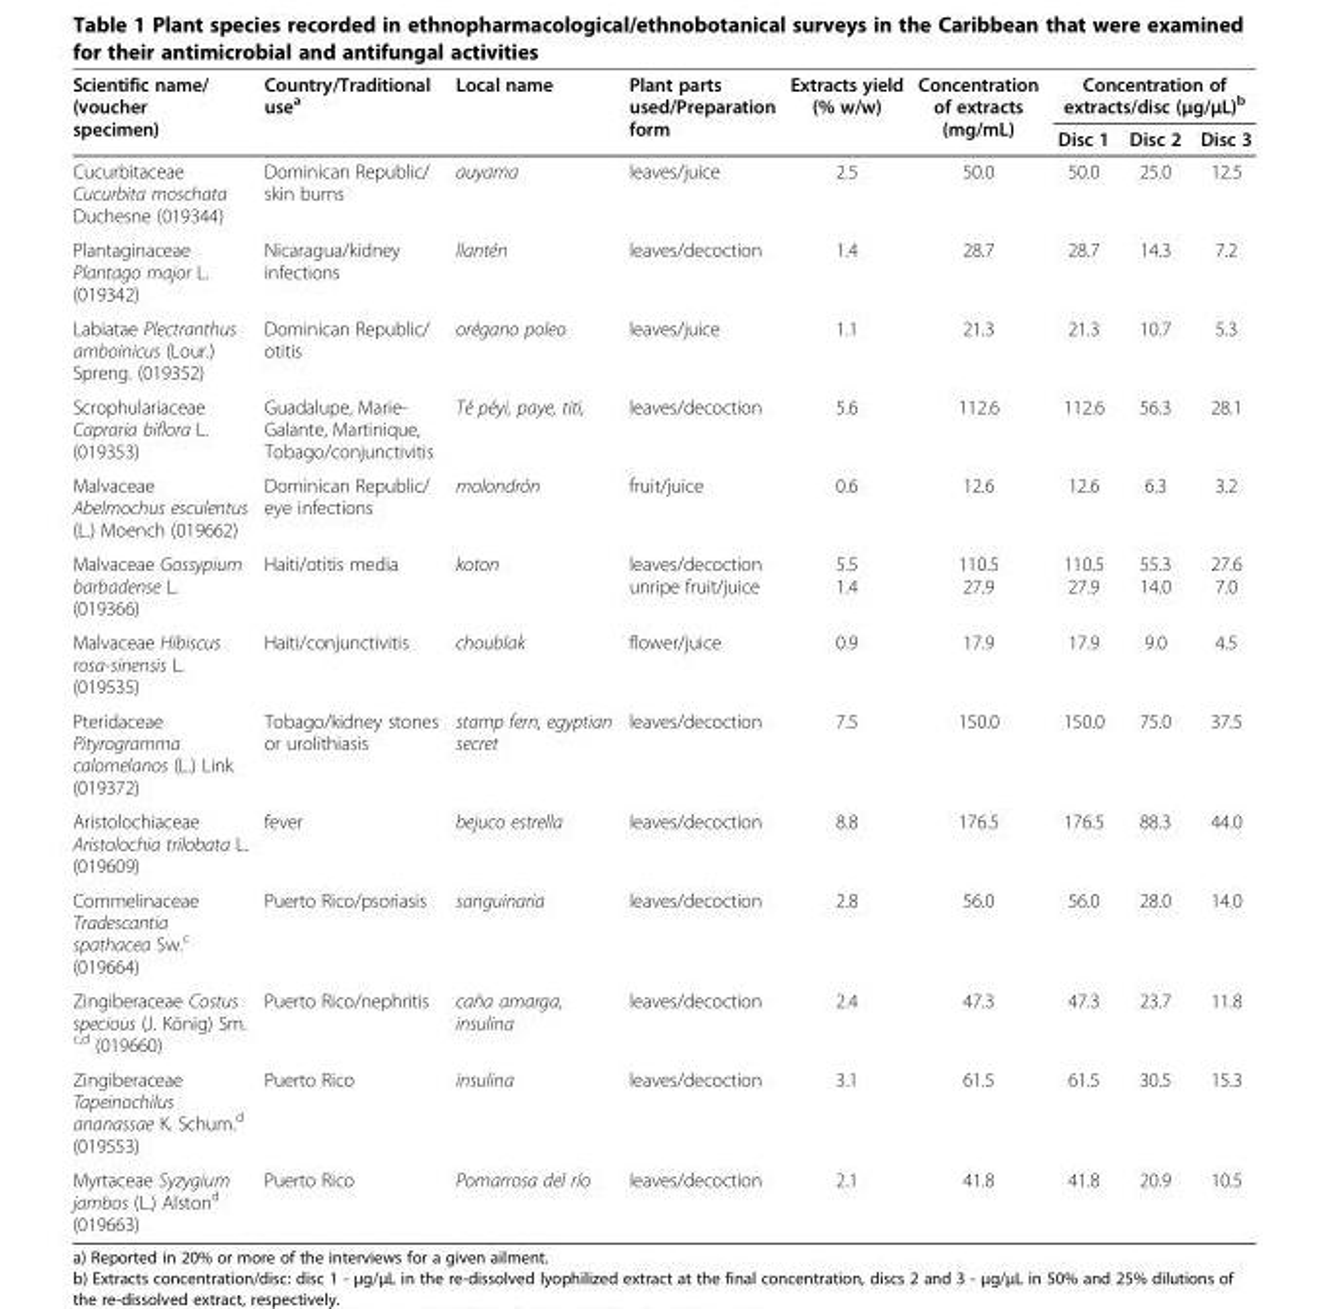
<table><thead><tr><td rowspan="2">Scientific name/ (voucher specimen)</td><td rowspan="2">Country/Traditional use<sup>a</sup></td><td rowspan="2">Local name</td><td rowspan="2">Plant parts used/Preparation form</td><td rowspan="2">Extracts yield (% w/w)</td><td rowspan="2">Concentration of extracts (mg/mL)</td><td colspan="3">Concentration of extracts/disc (μg/μL)<sup>b</sup></td></tr><tr><td>Disc 1</td><td>Disc 2</td><td>Disc 3</td></tr></thead><tbody><tr><td>Cucurbitaceae Cucurbita moschata Duchesne (019344)</td><td>Dominican Republic/ skin burns</td><td>auyama</td><td>leaves/juice</td><td>2.5</td><td>50.0</td><td>50.0</td><td>25.0</td><td>12.5</td></tr><tr><td>Plantaginaceae Plantago major L. (019342)</td><td>Nicaragua/kidney infections</td><td>llantén</td><td>leaves/decoction</td><td>1.4</td><td>28.7</td><td>28.7</td><td>14.3</td><td>7.2</td></tr><tr><td>Labiatae Plectranthus amboinicus (Lour.) Spreng. (019352)</td><td>Dominican Republic/ otitis</td><td>orégano poleo</td><td>leaves/juice</td><td>1.1</td><td>21.3</td><td>21.3</td><td>10.7</td><td>5.3</td></tr><tr><td>Scrophulariaceae Capraria biflora L. (019353)</td><td>Guadalupe, Marie- Galante, Martinique, Tobago/conjunctivitis</td><td>Té péyi, paye, titi,</td><td>leaves/decoction</td><td>5.6</td><td>112.6</td><td>112.6</td><td>56.3</td><td>28.1</td></tr><tr><td>Malvaceae Abelmochus esculentus (L.) Moench (019662)</td><td>Dominican Republic/ eye infections</td><td>molondrón</td><td>fruit/juice</td><td>0.6</td><td>12.6</td><td>12.6</td><td>6.3</td><td>3.2</td></tr><tr><td>Malvaceae Gossypium barbadense L. (019366)</td><td>Haiti/otitis media</td><td>koton</td><td>leaves/decoction unripe fruit/juice</td><td>5.5 1.4</td><td>110.5 27.9</td><td>110.5 27.9</td><td>55.3 14.0</td><td>27.6 7.0</td></tr><tr><td>Malvaceae Hibiscus rosa-sinensis L. (019535)</td><td>Haiti/conjunctivitis</td><td>choublak</td><td>flower/juice</td><td>0.9</td><td>17.9</td><td>17.9</td><td>9.0</td><td>4.5</td></tr><tr><td>Pteridaceae Pityrogramma calomelanos (L.) Link (019372)</td><td>Tobago/kidney stones or urolithiasis</td><td>stamp fern, egyptian secret</td><td>leaves/decoction</td><td>7.5</td><td>150.0</td><td>150.0</td><td>75.0</td><td>37.5</td></tr><tr><td>Aristolochiaceae Aristolochia trilobata L. (019609)</td><td>fever</td><td>bejuco estrella</td><td>leaves/decoction</td><td>8.8</td><td>176.5</td><td>176.5</td><td>88.3</td><td>44.0</td></tr><tr><td>Commelinaceae Tradescantia spathacea Sw.<sup>c</sup> (019664)</td><td>Puerto Rico/psoriasis</td><td>sanguinaria</td><td>leaves/decoction</td><td>2.8</td><td>56.0</td><td>56.0</td><td>28.0</td><td>14.0</td></tr><tr><td>Zingiberaceae Costus specious (J. König) Sm. <sup>c,d</sup> (019660)</td><td>Puerto Rico/nephritis</td><td>caña amarga, insulina</td><td>leaves/decoction</td><td>2.4</td><td>47.3</td><td>47.3</td><td>23.7</td><td>11.8</td></tr><tr><td>Zingiberaceae Tapeinochilus ananassae K. Schum.<sup>d</sup> (019553)</td><td>Puerto Rico</td><td>insulina</td><td>leaves/decoction</td><td>3.1</td><td>61.5</td><td>61.5</td><td>30.5</td><td>15.3</td></tr><tr><td>Myrtaceae Syzygium jambos (L.) Alston<sup>d</sup> (019663)</td><td>Puerto Rico</td><td>Pomarrosa del río</td><td>leaves/decoction</td><td>2.1</td><td>41.8</td><td>41.8</td><td>20.9</td><td>10.5</td></tr></tbody></table>